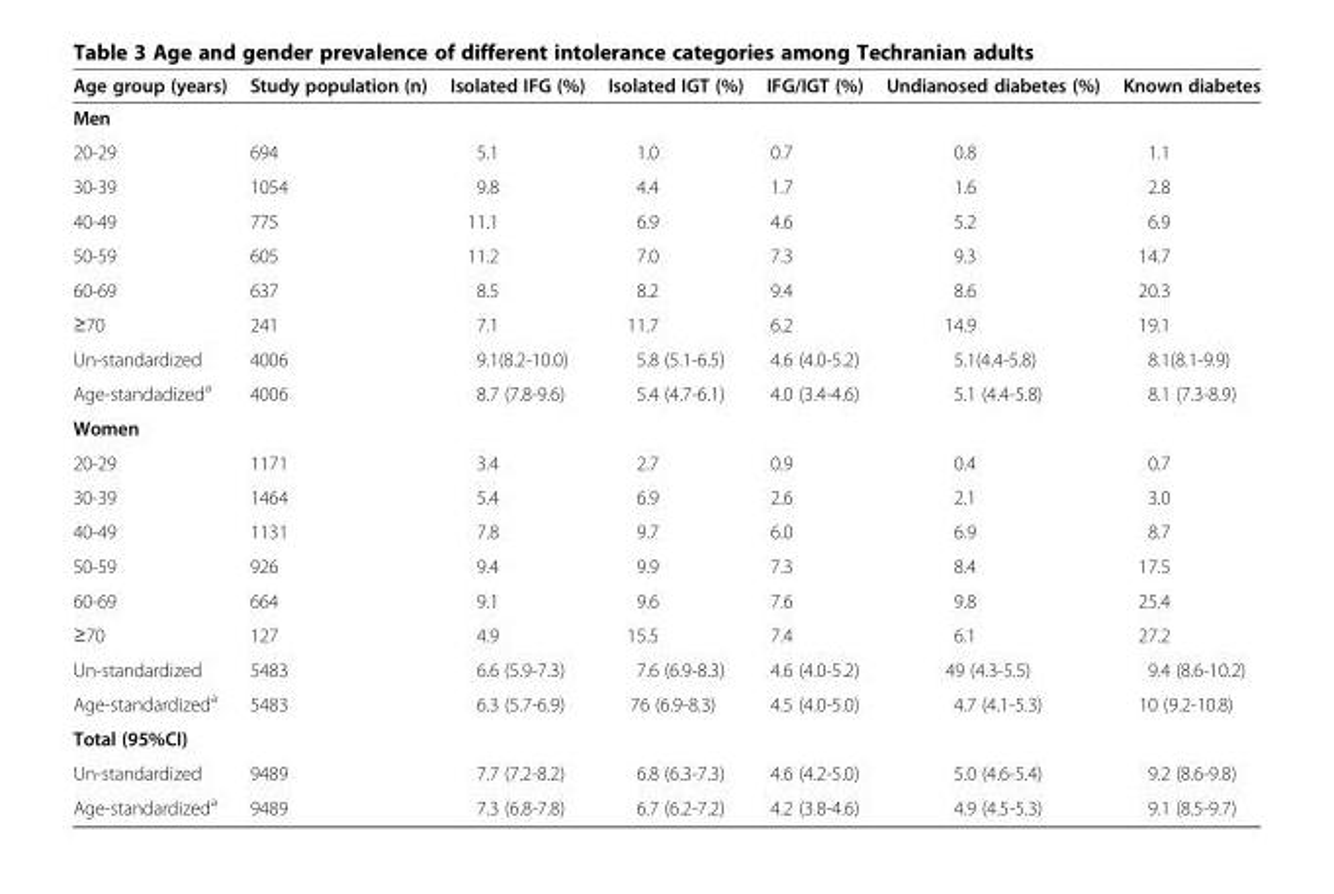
<table><thead><tr><td>Age group (years)</td><td>Study population (n)</td><td>Isolated IFG (%)</td><td>Isolated IGT (%)</td><td>IFG/IGT (%)</td><td>Undianosed diabetes (%)</td><td>Known diabetes</td></tr></thead><tbody><tr><td colspan="7">Men</td></tr><tr><td>20-29</td><td>694</td><td>5.1</td><td>1.0</td><td>0.7</td><td>0.8</td><td>1.1</td></tr><tr><td>30-39</td><td>1054</td><td>9.8</td><td>4.4</td><td>1.7</td><td>1.6</td><td>2.8</td></tr><tr><td>40-49</td><td>775</td><td>11.1</td><td>6.9</td><td>4.6</td><td>5.2</td><td>6.9</td></tr><tr><td>50-59</td><td>605</td><td>11.2</td><td>7.0</td><td>7.3</td><td>9.3</td><td>14.7</td></tr><tr><td>60-69</td><td>637</td><td>8.5</td><td>8.2</td><td>9.4</td><td>8.6</td><td>20.3</td></tr><tr><td>≥70</td><td>241</td><td>7.1</td><td>11.7</td><td>6.2</td><td>14.9</td><td>19.1</td></tr><tr><td>Un-standardized</td><td>4006</td><td>9.1(8.2-10.0)</td><td>5.8 (5.1-6.5)</td><td>4.6 (4.0-5.2)</td><td>5.1(4.4-5.8)</td><td>8.1(8.1-9.9)</td></tr><tr><td>Age-standadized<sup>a</sup></td><td>4006</td><td>8.7 (7.8-9.6)</td><td>5.4 (4.7-6.1)</td><td>4.0 (3.4-4.6)</td><td>5.1 (4.4-5.8)</td><td>8.1 (7.3-8.9)</td></tr><tr><td colspan="7">Women</td></tr><tr><td>20-29</td><td>1171</td><td>3.4</td><td>2.7</td><td>0.9</td><td>0.4</td><td>0.7</td></tr><tr><td>30-39</td><td>1464</td><td>5.4</td><td>6.9</td><td>2.6</td><td>2.1</td><td>3.0</td></tr><tr><td>40-49</td><td>1131</td><td>7.8</td><td>9.7</td><td>6.0</td><td>6.9</td><td>8.7</td></tr><tr><td>50-59</td><td>926</td><td>9.4</td><td>9.9</td><td>7.3</td><td>8.4</td><td>17.5</td></tr><tr><td>60-69</td><td>664</td><td>9.1</td><td>9.6</td><td>7.6</td><td>9.8</td><td>25.4</td></tr><tr><td>≥70</td><td>127</td><td>4.9</td><td>15.5</td><td>7.4</td><td>6.1</td><td>27.2</td></tr><tr><td>Un-standardized</td><td>5483</td><td>6.6 (5.9-7.3)</td><td>7.6 (6.9-8.3)</td><td>4.6 (4.0-5.2)</td><td>49 (4.3-5.5)</td><td>9.4 (8.6-10.2)</td></tr><tr><td>Age-standardized<sup>a</sup></td><td>5483</td><td>6.3 (5.7-6.9)</td><td>76 (6.9-8.3)</td><td>4.5 (4.0-5.0)</td><td>4.7 (4.1-5.3)</td><td>10 (9.2-10.8)</td></tr><tr><td colspan="7">Total (95%CI)</td></tr><tr><td>Un-standardized</td><td>9489</td><td>7.7 (7.2-8.2)</td><td>6.8 (6.3-7.3)</td><td>4.6 (4.2-5.0)</td><td>5.0 (4.6-5.4)</td><td>9.2 (8.6-9.8)</td></tr><tr><td>Age-standardized<sup>a</sup></td><td>9489</td><td>7.3 (6.8-7.8)</td><td>6.7 (6.2-7.2)</td><td>4.2 (3.8-4.6)</td><td>4.9 (4.5-5.3)</td><td>9.1 (8.5-9.7)</td></tr></tbody></table>